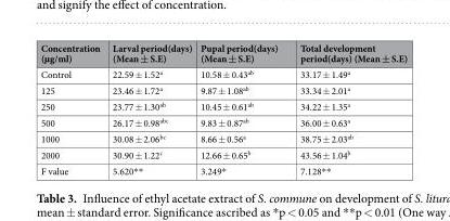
<table><thead><tr><td>Concentration (µg/ml)</td><td>Larval period(days) (Mean ± S.E)</td><td>Pupal period(days) (Mean ± S.E)</td><td>Total development period(days) (Mean ± S.E)</td></tr></thead><tbody><tr><td>Control</td><td>22.59 ± 1.52<sup>a</sup></td><td>10.58 ± 0.43<sup>ab</sup></td><td>33.17 ± 1.49<sup>a</sup></td></tr><tr><td>125</td><td>23.46 ± 1.72<sup>a</sup></td><td>9.87 ± 1.08<sup>ab</sup></td><td>33.34 ± 2.01<sup>a</sup></td></tr><tr><td>250</td><td>23.77 ± 1.30<sup>ab</sup></td><td>10.45 ± 0.61<sup>ab</sup></td><td>34.22 ± 1.35<sup>a</sup></td></tr><tr><td>500</td><td>26.17 ± 0.98<sup>abc</sup></td><td>9.83 ± 0.87<sup>ab</sup></td><td>36.00 ± 0.63<sup>a</sup></td></tr><tr><td>1000</td><td>30.08 ± 2.06<sup>bc</sup></td><td>8.66 ± 0.56<sup>a</sup></td><td>38.75 ± 2.03<sup>ab</sup></td></tr><tr><td>2000</td><td>30.90 ± 1.22<sup>c</sup></td><td>12.66 ± 0.65<sup>b</sup></td><td>43.56 ± 1.04<sup>b</sup></td></tr><tr><td>F value</td><td>5.620**</td><td>3.249*</td><td>7.128**</td></tr></tbody></table>